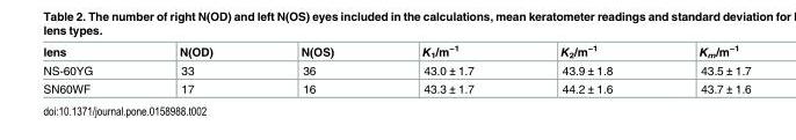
<table><thead><tr><td>lens</td><td>N(OD)</td><td>N(OS)</td><td>K<sub>1</sub>/m<sup>−1</sup></td><td>K<sub>2</sub>/m<sup>−1</sup></td><td>K<sub>m</sub>/m<sup>−1</sup></td></tr></thead><tbody><tr><td>NS-60YG</td><td>33</td><td>36</td><td>43.0 ± 1.7</td><td>43.9 ± 1.8</td><td>43.5 ± 1.7</td></tr><tr><td>SN60WF</td><td>17</td><td>16</td><td>43.3 ± 1.7</td><td>44.2 ± 1.6</td><td>43.7 ± 1.6</td></tr></tbody></table>